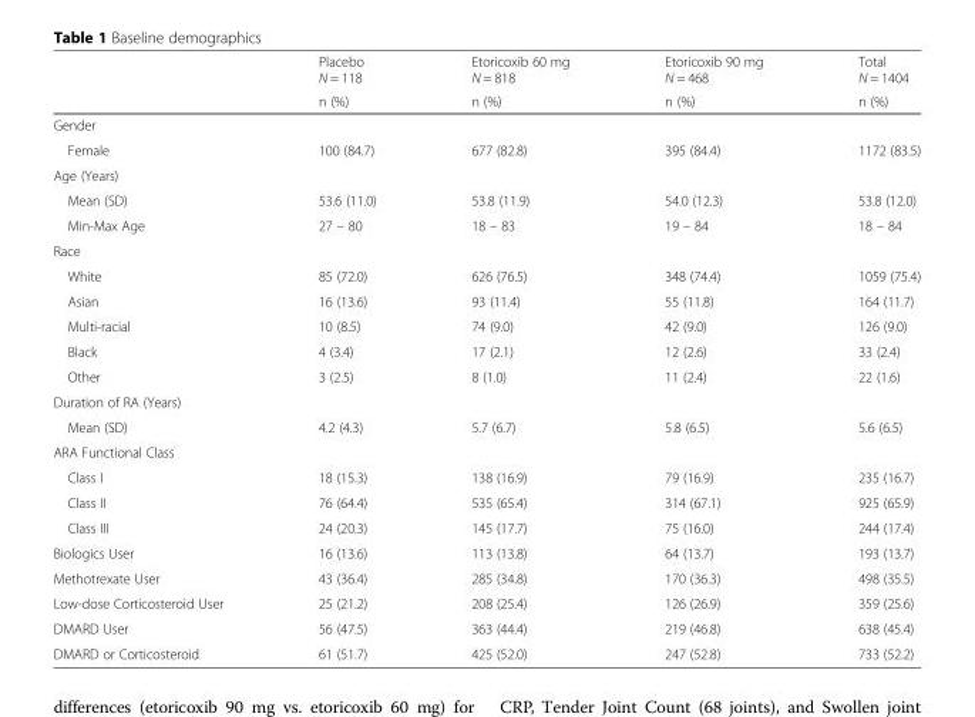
<table><thead><tr><td rowspan="2"></td><td rowspan="2">Placebo N = 118 n (%)</td><td rowspan="2">Etoricoxib 60 mg N = 818 n (%)</td><td rowspan="2">Etoricoxib 90 mg N = 468 n (%)</td><td rowspan="2">Total N = 1404 n (%)</td></tr><tr></tr></thead><tbody><tr><td colspan="5">Gender</td></tr><tr><td>Female</td><td>100 (84.7)</td><td>677 (82.8)</td><td>395 (84.4)</td><td>1172 (83.5)</td></tr><tr><td colspan="5">Age (Years)</td></tr><tr><td>Mean (SD)</td><td>53.6 (11.0)</td><td>53.8 (11.9)</td><td>54.0 (12.3)</td><td>53.8 (12.0)</td></tr><tr><td>Min-Max Age</td><td>27 – 80</td><td>18 – 83</td><td>19 – 84</td><td>18 – 84</td></tr><tr><td colspan="5">Race</td></tr><tr><td>White</td><td>85 (72.0)</td><td>626 (76.5)</td><td>348 (74.4)</td><td>1059 (75.4)</td></tr><tr><td>Asian</td><td>16 (13.6)</td><td>93 (11.4)</td><td>55 (11.8)</td><td>164 (11.7)</td></tr><tr><td>Multi-racial</td><td>10 (8.5)</td><td>74 (9.0)</td><td>42 (9.0)</td><td>126 (9.0)</td></tr><tr><td>Black</td><td>4 (3.4)</td><td>17 (2.1)</td><td>12 (2.6)</td><td>33 (2.4)</td></tr><tr><td>Other</td><td>3 (2.5)</td><td>8 (1.0)</td><td>11 (2.4)</td><td>22 (1.6)</td></tr><tr><td colspan="5">Duration of RA (Years)</td></tr><tr><td>Mean (SD)</td><td>4.2 (4.3)</td><td>5.7 (6.7)</td><td>5.8 (6.5)</td><td>5.6 (6.5)</td></tr><tr><td colspan="5">ARA Functional Class</td></tr><tr><td>Class I</td><td>18 (15.3)</td><td>138 (16.9)</td><td>79 (16.9)</td><td>235 (16.7)</td></tr><tr><td>Class II</td><td>76 (64.4)</td><td>535 (65.4)</td><td>314 (67.1)</td><td>925 (65.9)</td></tr><tr><td>Class III</td><td>24 (20.3)</td><td>145 (17.7)</td><td>75 (16.0)</td><td>244 (17.4)</td></tr><tr><td>Biologics User</td><td>16 (13.6)</td><td>113 (13.8)</td><td>64 (13.7)</td><td>193 (13.7)</td></tr><tr><td>Methotrexate User</td><td>43 (36.4)</td><td>285 (34.8)</td><td>170 (36.3)</td><td>498 (35.5)</td></tr><tr><td>Low-dose Corticosteroid User</td><td>25 (21.2)</td><td>208 (25.4)</td><td>126 (26.9)</td><td>359 (25.6)</td></tr><tr><td>DMARD User</td><td>56 (47.5)</td><td>363 (44.4)</td><td>219 (46.8)</td><td>638 (45.4)</td></tr><tr><td>DMARD or Corticosteroid</td><td>61 (51.7)</td><td>425 (52.0)</td><td>247 (52.8)</td><td>733 (52.2)</td></tr></tbody></table>